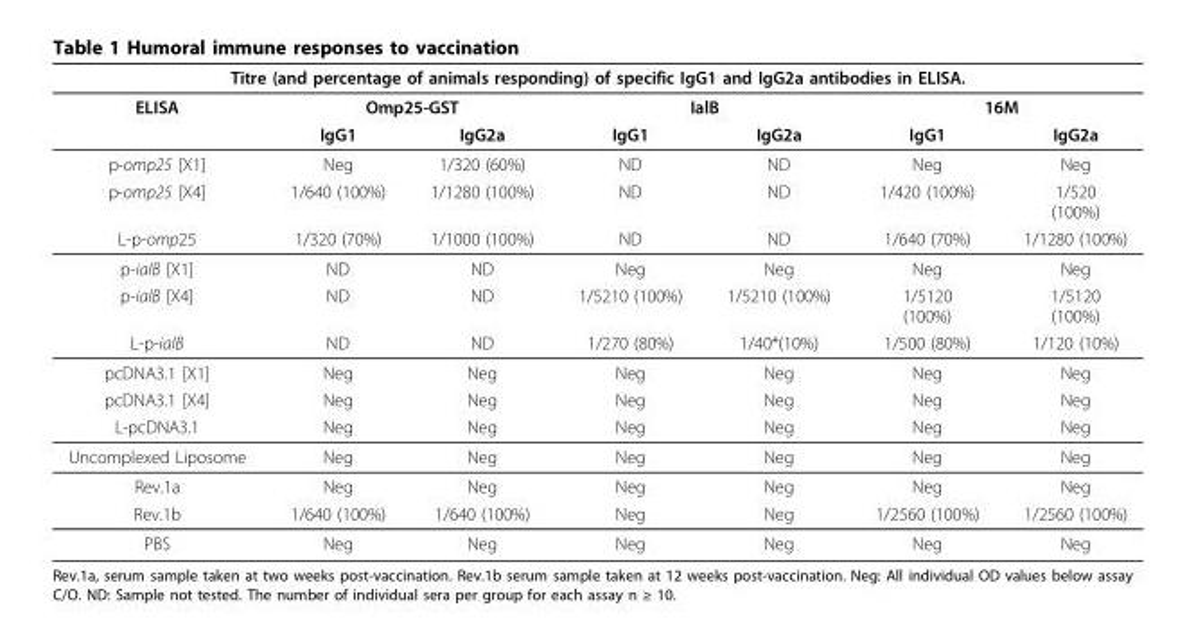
<table><thead><tr><td colspan="7">Titre (and percentage of animals responding) of specific IgG1 and IgG2a antibodies in ELISA.</td></tr><tr><td rowspan="2">ELISA</td><td colspan="2">Omp25-GST</td><td colspan="2">IalB</td><td colspan="2">16M</td></tr><tr><td>IgG1</td><td>IgG2a</td><td>IgG1</td><td>IgG2a</td><td>IgG1</td><td>IgG2a</td></tr></thead><tbody><tr><td>p-omp25 [X1]</td><td>Neg</td><td>1/320 (60%)</td><td>ND</td><td>ND</td><td>Neg</td><td>Neg</td></tr><tr><td>p-omp25 [X4]</td><td>1/640 (100%)</td><td>1/1280 (100%)</td><td>ND</td><td>ND</td><td>1/420 (100%)</td><td>1/520 (100%)</td></tr><tr><td>L-p-omp25</td><td>1/320 (70%)</td><td>1/1000 (100%)</td><td>ND</td><td>ND</td><td>1/640 (70%)</td><td>1/1280 (100%)</td></tr><tr><td>p-ialB [X1]</td><td>ND</td><td>ND</td><td>Neg</td><td>Neg</td><td>Neg</td><td>Neg</td></tr><tr><td>p-ialB [X4]</td><td>ND</td><td>ND</td><td>1/5210 (100%)</td><td>1/5210 (100%)</td><td>1/5120 (100%)</td><td>1/5120 (100%)</td></tr><tr><td>L-p-ialB</td><td>ND</td><td>ND</td><td>1/270 (80%)</td><td>1/40*(10%)</td><td>1/500 (80%)</td><td>1/120 (10%)</td></tr><tr><td>pcDNA3.1 [X1]</td><td>Neg</td><td>Neg</td><td>Neg</td><td>Neg</td><td>Neg</td><td>Neg</td></tr><tr><td>pcDNA3.1 [X4]</td><td>Neg</td><td>Neg</td><td>Neg</td><td>Neg</td><td>Neg</td><td>Neg</td></tr><tr><td>L-pcDNA3.1</td><td>Neg</td><td>Neg</td><td>Neg</td><td>Neg</td><td>Neg</td><td>Neg</td></tr><tr><td>Uncomplexed Liposome</td><td>Neg</td><td>Neg</td><td>Neg</td><td>Neg</td><td>Neg</td><td>Neg</td></tr><tr><td>Rev.1a</td><td>Neg</td><td>Neg</td><td>Neg</td><td>Neg</td><td>Neg</td><td>Neg</td></tr><tr><td>Rev.1b</td><td>1/640 (100%)</td><td>1/640 (100%)</td><td>Neg</td><td>Neg</td><td>1/2560 (100%)</td><td>1/2560 (100%)</td></tr><tr><td>PBS</td><td>Neg</td><td>Neg</td><td>Neg</td><td>Neg</td><td>Neg</td><td>Neg</td></tr></tbody></table>